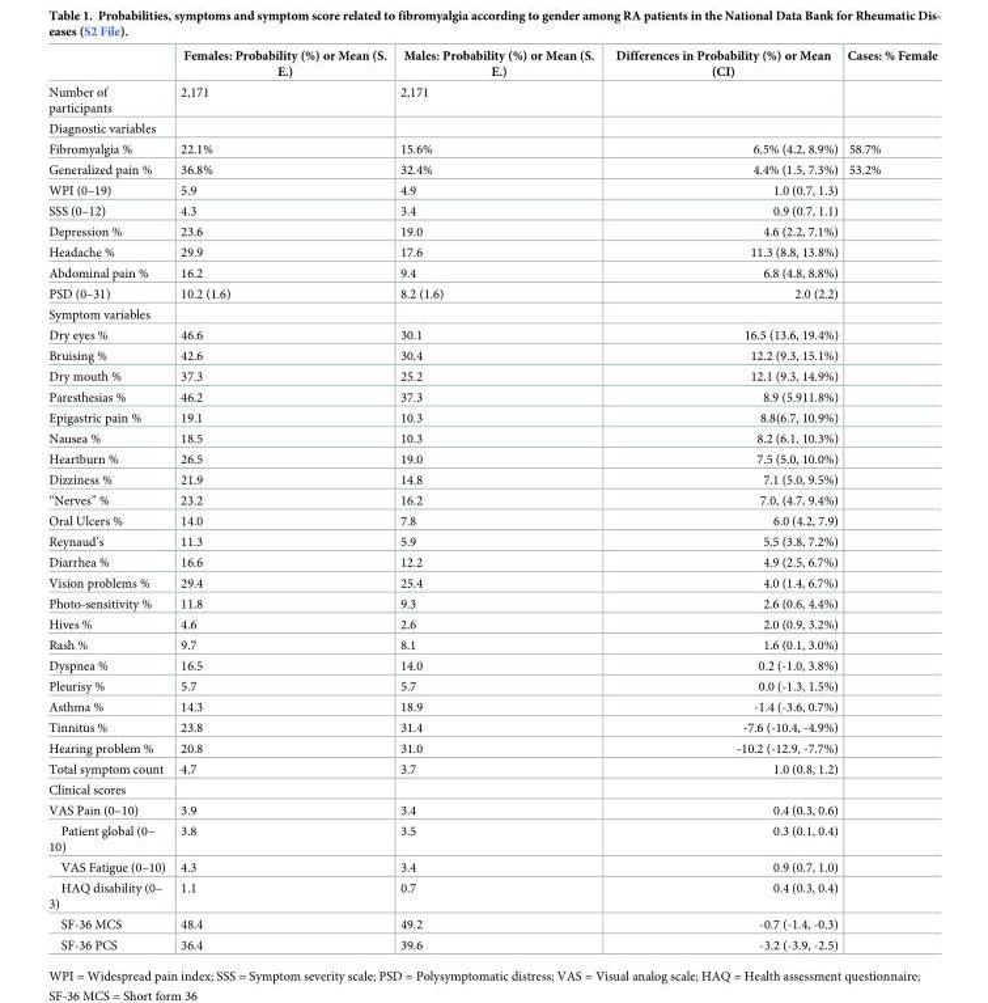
<table><thead><tr><td></td><td>Females: Probability (%) or Mean (S. E.)</td><td>Males: Probability (%) or Mean (S. E.)</td><td>Differences in Probability (%) or Mean (CI)</td><td>Cases: % Female</td></tr></thead><tbody><tr><td>Number of participants</td><td>2,171</td><td>2,171</td><td></td><td></td></tr><tr><td colspan="5">Diagnostic variables</td></tr><tr><td>Fibromyalgia %</td><td>22.1%</td><td>15.6%</td><td>6.5% (4.2, 8.9%)</td><td>58.7%</td></tr><tr><td>Generalized pain %</td><td>36.8%</td><td>32.4%</td><td>4.4% (1.5, 7.3%)</td><td>53.2%</td></tr><tr><td>WPI (0–19)</td><td>5.9</td><td>4.9</td><td>1.0 (0.7, 1.3)</td><td></td></tr><tr><td>SSS (0–12)</td><td>4.3</td><td>3.4</td><td>0.9 (0.7, 1.1)</td><td></td></tr><tr><td>Depression %</td><td>23.6</td><td>19.0</td><td>4.6 (2.2, 7.1%)</td><td></td></tr><tr><td>Headache %</td><td>29.9</td><td>17.6</td><td>11.3 (8.8, 13.8%)</td><td></td></tr><tr><td>Abdominal pain %</td><td>16.2</td><td>9.4</td><td>6.8 (4.8, 8.8%)</td><td></td></tr><tr><td>PSD (0–31)</td><td>10.2 (1.6)</td><td>8.2 (1.6)</td><td>2.0 (2.2)</td><td></td></tr><tr><td colspan="5">Symptom variables</td></tr><tr><td>Dry eyes %</td><td>46.6</td><td>30.1</td><td>16.5 (13.6, 19.4%)</td><td></td></tr><tr><td>Bruising %</td><td>42.6</td><td>30.4</td><td>12.2 (9.3, 15.1%)</td><td></td></tr><tr><td>Dry mouth %</td><td>37.3</td><td>25.2</td><td>12.1 (9.3, 14.9%)</td><td></td></tr><tr><td>Paresthesias %</td><td>46.2</td><td>37.3</td><td>8.9 (5.911.8%)</td><td></td></tr><tr><td>Epigastric pain %</td><td>19.1</td><td>10.3</td><td>8.8(6.7, 10.9%)</td><td></td></tr><tr><td>Nausea %</td><td>18.5</td><td>10.3</td><td>8.2 (6.1, 10.3%)</td><td></td></tr><tr><td>Heartburn %</td><td>26.5</td><td>19.0</td><td>7.5 (5.0, 10.0%)</td><td></td></tr><tr><td>Dizziness %</td><td>21.9</td><td>14.8</td><td>7.1 (5.0, 9.5%)</td><td></td></tr><tr><td>“Nerves” %</td><td>23.2</td><td>16.2</td><td>7.0, (4.7, 9.4%)</td><td></td></tr><tr><td>Oral Ulcers %</td><td>14.0</td><td>7.8</td><td>6.0 (4.2, 7.9)</td><td></td></tr><tr><td>Reynaud’s</td><td>11.3</td><td>5.9</td><td>5.5 (3.8, 7.2%)</td><td></td></tr><tr><td>Diarrhea %</td><td>16.6</td><td>12.2</td><td>4.9 (2.5, 6.7%)</td><td></td></tr><tr><td>Vision problems %</td><td>29.4</td><td>25.4</td><td>4.0 (1.4, 6.7%)</td><td></td></tr><tr><td>Photo-sensitivity %</td><td>11.8</td><td>9.3</td><td>2.6 (0.6, 4.4%)</td><td></td></tr><tr><td>Hives %</td><td>4.6</td><td>2.6</td><td>2.0 (0.9, 3.2%)</td><td></td></tr><tr><td>Rash %</td><td>9.7</td><td>8.1</td><td>1.6 (0.1, 3.0%)</td><td></td></tr><tr><td>Dyspnea %</td><td>16.5</td><td>14.0</td><td>0.2 (-1.0, 3.8%)</td><td></td></tr><tr><td>Pleurisy %</td><td>5.7</td><td>5.7</td><td>0.0 (-1.3, 1.5%)</td><td></td></tr><tr><td>Asthma %</td><td>14.3</td><td>18.9</td><td>-1.4 (-3.6, 0.7%)</td><td></td></tr><tr><td>Tinnitus %</td><td>23.8</td><td>31.4</td><td>-7.6 (-10.4, -4.9%)</td><td></td></tr><tr><td>Hearing problem %</td><td>20.8</td><td>31.0</td><td>-10.2 (-12.9, -7.7%)</td><td></td></tr><tr><td>Total symptom count</td><td>4.7</td><td>3.7</td><td>1.0 (0.8, 1.2)</td><td></td></tr><tr><td colspan="5">Clinical scores</td></tr><tr><td>VAS Pain (0–10)</td><td>3.9</td><td>3.4</td><td>0.4 (0.3, 0.6)</td><td></td></tr><tr><td>Patient global (0– 10)</td><td>3.8</td><td>3.5</td><td>0.3 (0.1, 0.4)</td><td></td></tr><tr><td>VAS Fatigue (0–10)</td><td>4.3</td><td>3.4</td><td>0.9 (0.7, 1.0)</td><td></td></tr><tr><td>HAQ disability (0– 3)</td><td>1.1</td><td>0.7</td><td>0.4 (0.3, 0.4)</td><td></td></tr><tr><td>SF-36 MCS</td><td>48.4</td><td>49.2</td><td>-0.7 (-1.4, -0.3)</td><td></td></tr><tr><td>SF-36 PCS</td><td>36.4</td><td>39.6</td><td>-3.2 (-3.9, -2.5)</td><td></td></tr></tbody></table>